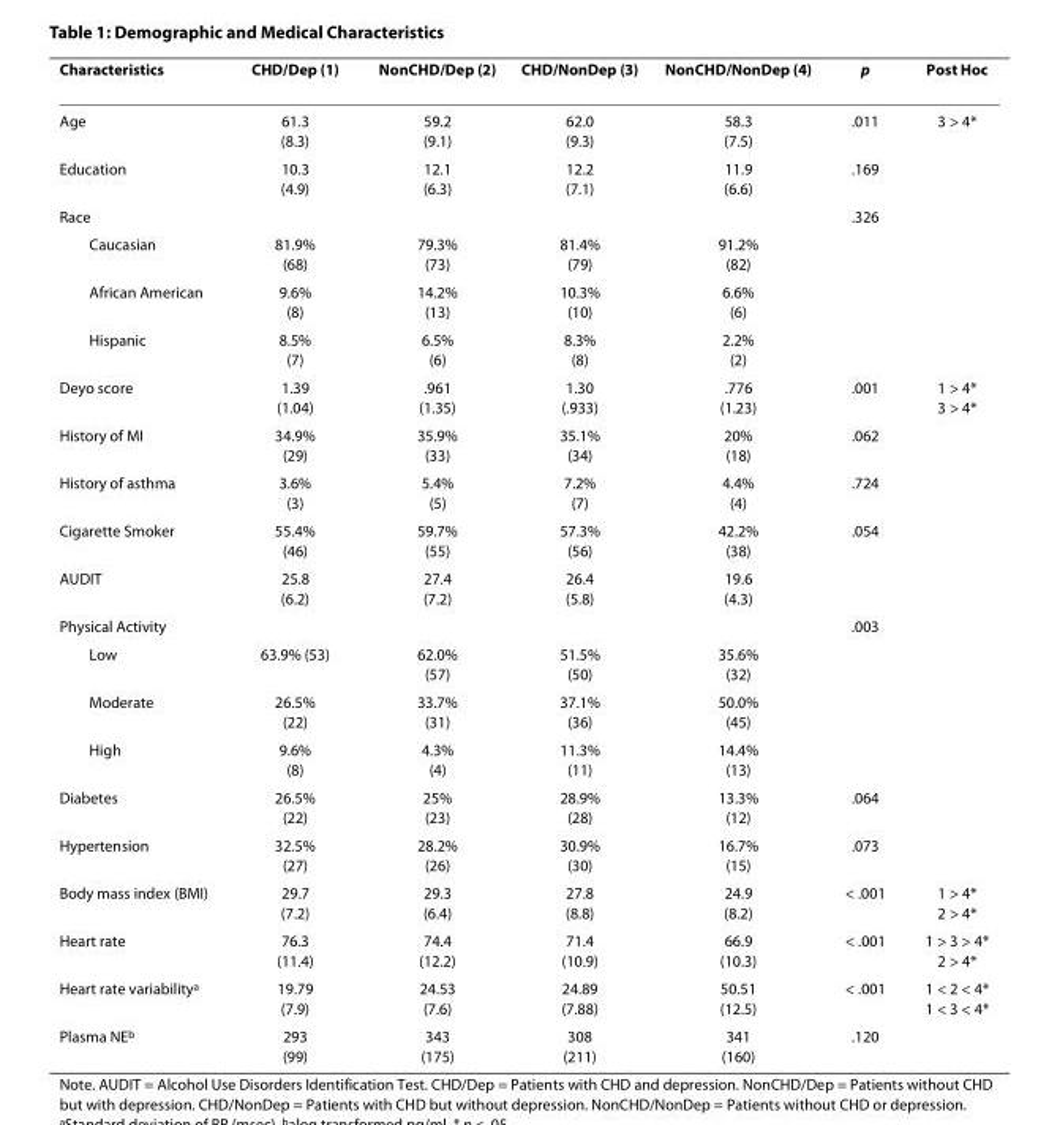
<table><thead><tr><td>Characteristics</td><td>CHD/Dep (1)</td><td>NonCHD/Dep (2)</td><td>CHD/NonDep (3)</td><td>NonCHD/NonDep (4)</td><td>p</td><td>Post Hoc</td></tr></thead><tbody><tr><td>Age</td><td>61.3 (8.3)</td><td>59.2 (9.1)</td><td>62.0 (9.3)</td><td>58.3 (7.5)</td><td>.011</td><td>3 &gt; 4*</td></tr><tr><td>Education</td><td>10.3 (4.9)</td><td>12.1 (6.3)</td><td>12.2 (7.1)</td><td>11.9 (6.6)</td><td>.169</td><td></td></tr><tr><td>Race</td><td></td><td></td><td></td><td></td><td>.326</td><td></td></tr><tr><td>Caucasian</td><td>81.9% (68)</td><td>79.3% (73)</td><td>81.4% (79)</td><td>91.2% (82)</td><td></td><td></td></tr><tr><td>African American</td><td>9.6% (8)</td><td>14.2% (13)</td><td>10.3% (10)</td><td>6.6% (6)</td><td></td><td></td></tr><tr><td>Hispanic</td><td>8.5% (7)</td><td>6.5% (6)</td><td>8.3% (8)</td><td>2.2% (2)</td><td></td><td></td></tr><tr><td>Deyo score</td><td>1.39 (1.04)</td><td>.961 (1.35)</td><td>1.30 (.933)</td><td>.776 (1.23)</td><td>.001</td><td>1 &gt; 4* 3 &gt; 4*</td></tr><tr><td>History of MI</td><td>34.9% (29)</td><td>35.9% (33)</td><td>35.1% (34)</td><td>20% (18)</td><td>.062</td><td></td></tr><tr><td>History of asthma</td><td>3.6% (3)</td><td>5.4% (5)</td><td>7.2% (7)</td><td>4.4% (4)</td><td>.724</td><td></td></tr><tr><td>Cigarette Smoker</td><td>55.4% (46)</td><td>59.7% (55)</td><td>57.3% (56)</td><td>42.2% (38)</td><td>.054</td><td></td></tr><tr><td>AUDIT</td><td>25.8 (6.2)</td><td>27.4 (7.2)</td><td>26.4 (5.8)</td><td>19.6 (4.3)</td><td></td><td></td></tr><tr><td>Physical Activity</td><td></td><td></td><td></td><td></td><td>.003</td><td></td></tr><tr><td>Low</td><td>63.9% (53)</td><td>62.0% (57)</td><td>51.5% (50)</td><td>35.6% (32)</td><td></td><td></td></tr><tr><td>Moderate</td><td>26.5% (22)</td><td>33.7% (31)</td><td>37.1% (36)</td><td>50.0% (45)</td><td></td><td></td></tr><tr><td>High</td><td>9.6% (8)</td><td>4.3% (4)</td><td>11.3% (11)</td><td>14.4% (13)</td><td></td><td></td></tr><tr><td>Diabetes</td><td>26.5% (22)</td><td>25% (23)</td><td>28.9% (28)</td><td>13.3% (12)</td><td>.064</td><td></td></tr><tr><td>Hypertension</td><td>32.5% (27)</td><td>28.2% (26)</td><td>30.9% (30)</td><td>16.7% (15)</td><td>.073</td><td></td></tr><tr><td>Body mass index (BMI)</td><td>29.7 (7.2)</td><td>29.3 (6.4)</td><td>27.8 (8.8)</td><td>24.9 (8.2)</td><td>&lt; .001</td><td>1 &gt; 4* 2 &gt; 4*</td></tr><tr><td>Heart rate</td><td>76.3 (11.4)</td><td>74.4 (12.2)</td><td>71.4 (10.9)</td><td>66.9 (10.3)</td><td>&lt; .001</td><td>1 &gt; 3 &gt; 4* 2 &gt; 4*</td></tr><tr><td>Heart rate variability<sup>a</sup></td><td>19.79 (7.9)</td><td>24.53 (7.6)</td><td>24.89 (7.88)</td><td>50.51 (12.5)</td><td>&lt; .001</td><td>1 &lt; 2 &lt; 4* 1 &lt; 3 &lt; 4*</td></tr><tr><td>Plasma NE<sup>b</sup></td><td>293 (99)</td><td>343 (175)</td><td>308 (211)</td><td>341 (160)</td><td>.120</td><td></td></tr></tbody></table>